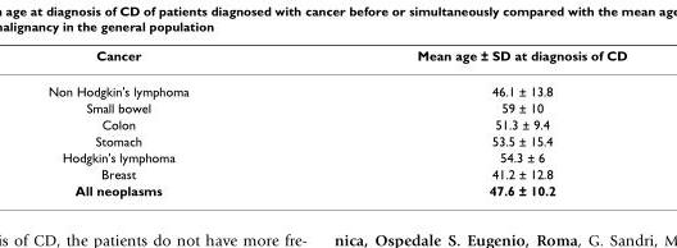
<table><thead><tr><td>Cancer</td><td>Mean age ± SD at diagnosis of CD</td></tr></thead><tbody><tr><td>Non Hodgkin&#x27;s lymphoma</td><td>46.1 ± 13.8</td></tr><tr><td>Small bowel</td><td>59 ± 10</td></tr><tr><td>Colon</td><td>51.3 ± 9.4</td></tr><tr><td>Stomach</td><td>53.5 ± 15.4</td></tr><tr><td>Hodgkin&#x27;s lymphoma</td><td>54.3 ± 6</td></tr><tr><td>Breast</td><td>41.2 ± 12.8</td></tr><tr><td>All neoplasms</td><td>47.6 ± 10.2</td></tr></tbody></table>